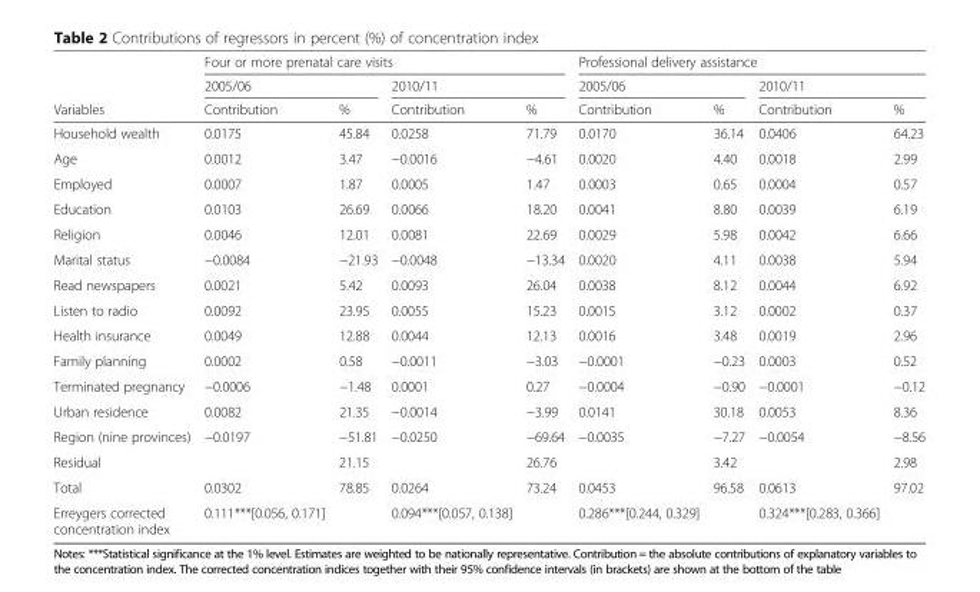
<table><thead><tr><td rowspan="3">Variables</td><td colspan="4">Four or more prenatal care visits</td><td colspan="4">Professional delivery assistance</td></tr><tr><td colspan="2">2005/06</td><td colspan="2">2010/11</td><td colspan="2">2005/06</td><td colspan="2">2010/11</td></tr><tr><td>Contribution</td><td>%</td><td>Contribution</td><td>%</td><td>Contribution</td><td>%</td><td>Contribution</td><td>%</td></tr></thead><tbody><tr><td>Household wealth</td><td>0.0175</td><td>45.84</td><td>0.0258</td><td>71.79</td><td>0.0170</td><td>36.14</td><td>0.0406</td><td>64.23</td></tr><tr><td>Age</td><td>0.0012</td><td>3.47</td><td>−0.0016</td><td>−4.61</td><td>0.0020</td><td>4.40</td><td>0.0018</td><td>2.99</td></tr><tr><td>Employed</td><td>0.0007</td><td>1.87</td><td>0.0005</td><td>1.47</td><td>0.0003</td><td>0.65</td><td>0.0004</td><td>0.57</td></tr><tr><td>Education</td><td>0.0103</td><td>26.69</td><td>0.0066</td><td>18.20</td><td>0.0041</td><td>8.80</td><td>0.0039</td><td>6.19</td></tr><tr><td>Religion</td><td>0.0046</td><td>12.01</td><td>0.0081</td><td>22.69</td><td>0.0029</td><td>5.98</td><td>0.0042</td><td>6.66</td></tr><tr><td>Marital status</td><td>−0.0084</td><td>−21.93</td><td>−0.0048</td><td>−13.34</td><td>0.0020</td><td>4.11</td><td>0.0038</td><td>5.94</td></tr><tr><td>Read newspapers</td><td>0.0021</td><td>5.42</td><td>0.0093</td><td>26.04</td><td>0.0038</td><td>8.12</td><td>0.0044</td><td>6.92</td></tr><tr><td>Listen to radio</td><td>0.0092</td><td>23.95</td><td>0.0055</td><td>15.23</td><td>0.0015</td><td>3.12</td><td>0.0002</td><td>0.37</td></tr><tr><td>Health insurance</td><td>0.0049</td><td>12.88</td><td>0.0044</td><td>12.13</td><td>0.0016</td><td>3.48</td><td>0.0019</td><td>2.96</td></tr><tr><td>Family planning</td><td>0.0002</td><td>0.58</td><td>−0.0011</td><td>−3.03</td><td>−0.0001</td><td>−0.23</td><td>0.0003</td><td>0.52</td></tr><tr><td>Terminated pregnancy</td><td>−0.0006</td><td>−1.48</td><td>0.0001</td><td>0.27</td><td>−0.0004</td><td>−0.90</td><td>−0.0001</td><td>−0.12</td></tr><tr><td>Urban residence</td><td>0.0082</td><td>21.35</td><td>−0.0014</td><td>−3.99</td><td>0.0141</td><td>30.18</td><td>0.0053</td><td>8.36</td></tr><tr><td>Region (nine provinces)</td><td>−0.0197</td><td>−51.81</td><td>−0.0250</td><td>−69.64</td><td>−0.0035</td><td>−7.27</td><td>−0.0054</td><td>−8.56</td></tr><tr><td>Residual</td><td></td><td>21.15</td><td></td><td>26.76</td><td></td><td>3.42</td><td></td><td>2.98</td></tr><tr><td>Total</td><td>0.0302</td><td>78.85</td><td>0.0264</td><td>73.24</td><td>0.0453</td><td>96.58</td><td>0.0613</td><td>97.02</td></tr><tr><td>Erreygers corrected concentration index</td><td>0.111***[0.056, 0.171]</td><td></td><td>0.094***[0.057, 0.138]</td><td></td><td>0.286***[0.244, 0.329]</td><td></td><td>0.324***[0.283, 0.366]</td><td></td></tr></tbody></table>